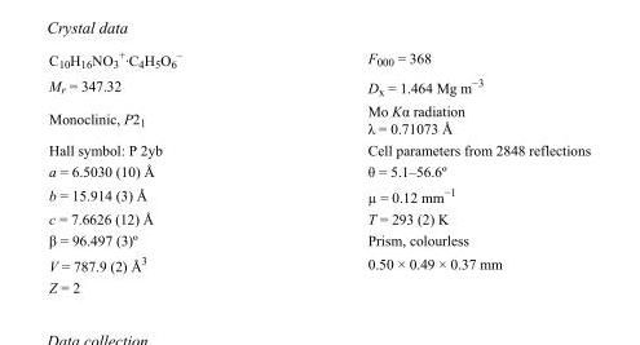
<table><tbody><tr><td>C<sub>10</sub>H<sub>16</sub>NO<sub>3</sub> <sup>+</sup>·C<sub>4</sub>H<sub>5</sub>O<sub>6</sub> <sup>–</sup></td><td>F<sub>000</sub> = 368</td></tr><tr><td>M<sub>r</sub> = 347.32</td><td>D<sub>x</sub> = 1.464 Mg m<sup>−3</sup></td></tr><tr><td>Monoclinic, P2<sub>1</sub></td><td>Mo Kα radiation λ = 0.71073 Å</td></tr><tr><td>Hall symbol: P 2yb</td><td>Cell parameters from 2848 reflections</td></tr><tr><td>a = 6.5030 (10) Å</td><td>θ = 5.1–56.6º</td></tr><tr><td>b = 15.914 (3) Å</td><td>µ = 0.12 mm<sup>−1</sup></td></tr><tr><td>c = 7.6626 (12) Å</td><td>T = 293 (2) K</td></tr><tr><td>β = 96.497 (3)º</td><td>Prism, colourless</td></tr><tr><td>V = 787.9 (2) Å<sup>3</sup></td><td>0.50 × 0.49 × 0.37 mm</td></tr><tr><td>Z = 2</td><td></td></tr></tbody></table>